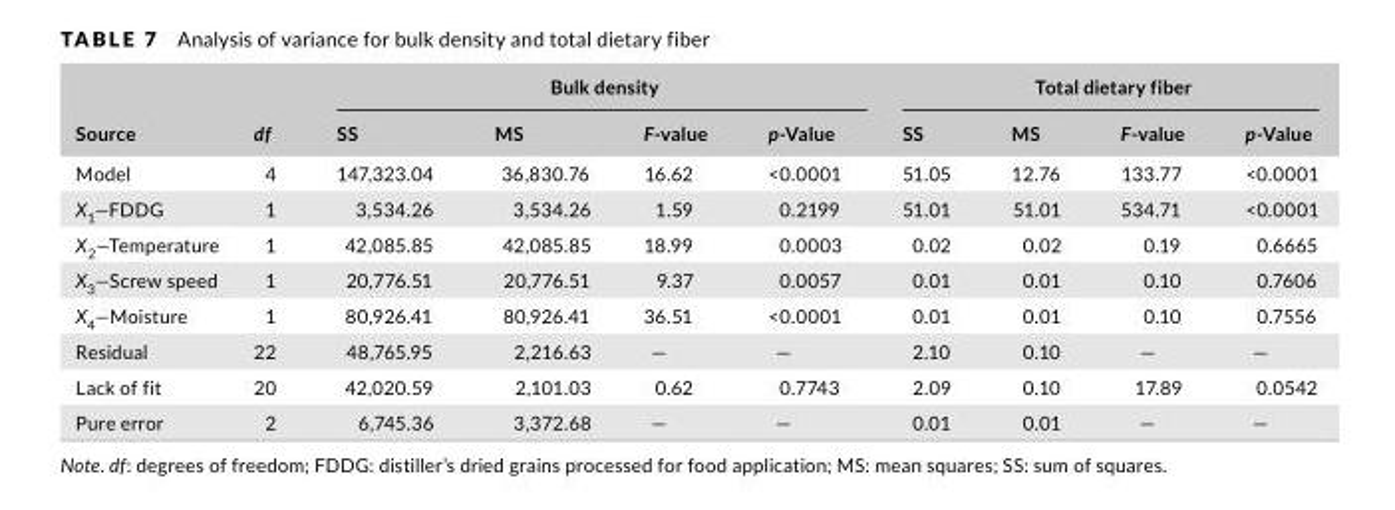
<table><thead><tr><td rowspan="2">Source</td><td rowspan="2">df</td><td colspan="4">Bulk density</td><td colspan="4">Total dietary fiber</td></tr><tr><td>SS</td><td>MS</td><td>F- value</td><td>p- Value</td><td>SS</td><td>MS</td><td>F- value</td><td>p- Value</td></tr></thead><tbody><tr><td>Model</td><td>4</td><td>147,323.04</td><td>36,830.76</td><td>16.62</td><td>&lt;0.0001</td><td>51.05</td><td>12.76</td><td>133.77</td><td>&lt;0.0001</td></tr><tr><td>X<sub>1</sub>—FDDG</td><td>1</td><td>3,534.26</td><td>3,534.26</td><td>1.59</td><td>0.2199</td><td>51.01</td><td>51.01</td><td>534.71</td><td>&lt;0.0001</td></tr><tr><td>X<sub>2</sub>—Temperature</td><td>1</td><td>42,085.85</td><td>42,085.85</td><td>18.99</td><td>0.0003</td><td>0.02</td><td>0.02</td><td>0.19</td><td>0.6665</td></tr><tr><td>X<sub>3</sub>—Screw speed</td><td>1</td><td>20,776.51</td><td>20,776.51</td><td>9.37</td><td>0.0057</td><td>0.01</td><td>0.01</td><td>0.10</td><td>0.7606</td></tr><tr><td>X<sub>4</sub>—Moisture</td><td>1</td><td>80,926.41</td><td>80,926.41</td><td>36.51</td><td>&lt;0.0001</td><td>0.01</td><td>0.01</td><td>0.10</td><td>0.7556</td></tr><tr><td>Residual</td><td>22</td><td>48,765.95</td><td>2,216.63</td><td>—</td><td>—</td><td>2.10</td><td>0.10</td><td>—</td><td>—</td></tr><tr><td>Lack of fit</td><td>20</td><td>42,020.59</td><td>2,101.03</td><td>0.62</td><td>0.7743</td><td>2.09</td><td>0.10</td><td>17.89</td><td>0.0542</td></tr><tr><td>Pure error</td><td>2</td><td>6,745.36</td><td>3,372.68</td><td>—</td><td>—</td><td>0.01</td><td>0.01</td><td>—</td><td>—</td></tr></tbody></table>